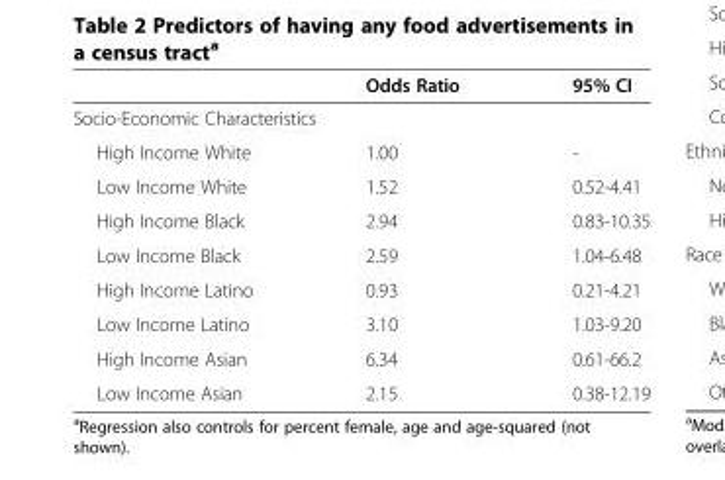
<table><thead><tr><td></td><td>Odds Ratio</td><td>95% CI</td></tr></thead><tbody><tr><td colspan="3">Socio-Economic Characteristics</td></tr><tr><td>High Income White</td><td>1.00</td><td>-</td></tr><tr><td>Low Income White</td><td>1.52</td><td>0.52-4.41</td></tr><tr><td>High Income Black</td><td>2.94</td><td>0.83-10.35</td></tr><tr><td>Low Income Black</td><td>2.59</td><td>1.04-6.48</td></tr><tr><td>High Income Latino</td><td>0.93</td><td>0.21-4.21</td></tr><tr><td>Low Income Latino</td><td>3.10</td><td>1.03-9.20</td></tr><tr><td>High Income Asian</td><td>6.34</td><td>0.61-66.2</td></tr><tr><td>Low Income Asian</td><td>2.15</td><td>0.38-12.19</td></tr></tbody></table>